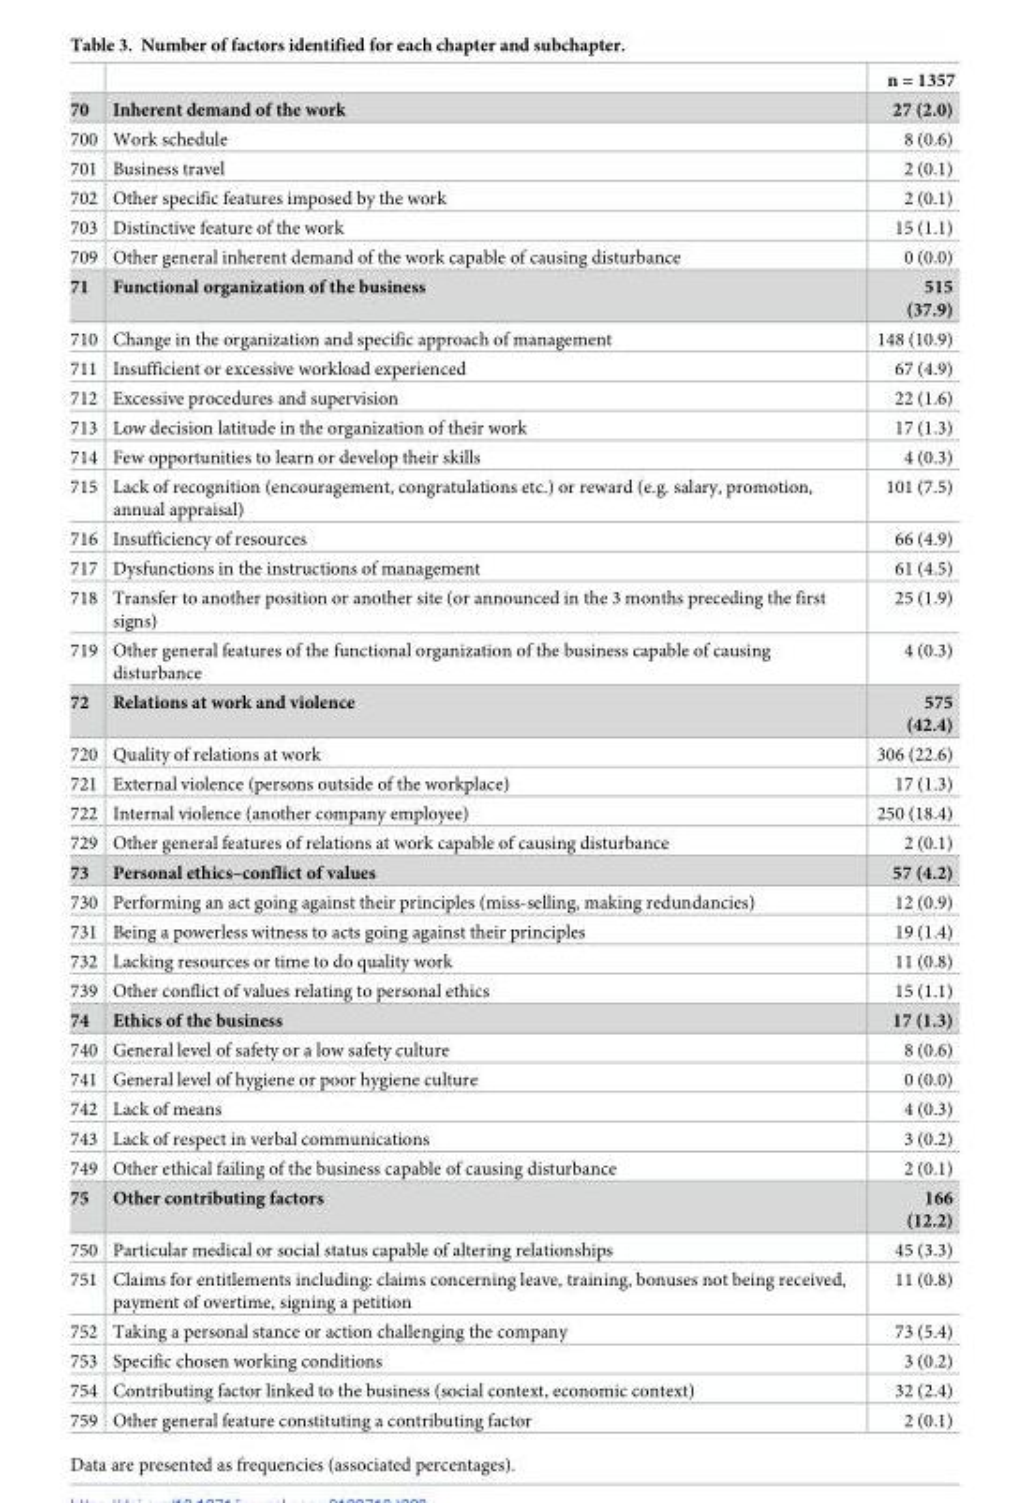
<table><thead><tr><td></td><td></td><td>n = 1357</td></tr></thead><tbody><tr><td>70</td><td>Inherent demand of the work</td><td>27 (2.0)</td></tr><tr><td>700</td><td>Work schedule</td><td>8 (0.6)</td></tr><tr><td>701</td><td>Business travel</td><td>2 (0.1)</td></tr><tr><td>702</td><td>Other specific features imposed by the work</td><td>2 (0.1)</td></tr><tr><td>703</td><td>Distinctive feature of the work</td><td>15 (1.1)</td></tr><tr><td>709</td><td>Other general inherent demand of the work capable of causing disturbance</td><td>0 (0.0)</td></tr><tr><td>71</td><td>Functional organization of the business</td><td>515 (37.9)</td></tr><tr><td>710</td><td>Change in the organization and specific approach of management</td><td>148 (10.9)</td></tr><tr><td>711</td><td>Insufficient or excessive workload experienced</td><td>67 (4.9)</td></tr><tr><td>712</td><td>Excessive procedures and supervision</td><td>22 (1.6)</td></tr><tr><td>713</td><td>Low decision latitude in the organization of their work</td><td>17 (1.3)</td></tr><tr><td>714</td><td>Few opportunities to learn or develop their skills</td><td>4 (0.3)</td></tr><tr><td>715</td><td>Lack of recognition (encouragement, congratulations etc.) or reward (e.g. salary, promotion, annual appraisal)</td><td>101 (7.5)</td></tr><tr><td>716</td><td>Insufficiency of resources</td><td>66 (4.9)</td></tr><tr><td>717</td><td>Dysfunctions in the instructions of management</td><td>61 (4.5)</td></tr><tr><td>718</td><td>Transfer to another position or another site (or announced in the 3 months preceding the first signs)</td><td>25 (1.9)</td></tr><tr><td>719</td><td>Other general features of the functional organization of the business capable of causing disturbance</td><td>4 (0.3)</td></tr><tr><td>72</td><td>Relations at work and violence</td><td>575 (42.4)</td></tr><tr><td>720</td><td>Quality of relations at work</td><td>306 (22.6)</td></tr><tr><td>721</td><td>External violence (persons outside of the workplace)</td><td>17 (1.3)</td></tr><tr><td>722</td><td>Internal violence (another company employee)</td><td>250 (18.4)</td></tr><tr><td>729</td><td>Other general features of relations at work capable of causing disturbance</td><td>2 (0.1)</td></tr><tr><td>73</td><td>Personal ethics–conflict of values</td><td>57 (4.2)</td></tr><tr><td>730</td><td>Performing an act going against their principles (miss-selling, making redundancies)</td><td>12 (0.9)</td></tr><tr><td>731</td><td>Being a powerless witness to acts going against their principles</td><td>19 (1.4)</td></tr><tr><td>732</td><td>Lacking resources or time to do quality work</td><td>11 (0.8)</td></tr><tr><td>739</td><td>Other conflict of values relating to personal ethics</td><td>15 (1.1)</td></tr><tr><td>74</td><td>Ethics of the business</td><td>17 (1.3)</td></tr><tr><td>740</td><td>General level of safety or a low safety culture</td><td>8 (0.6)</td></tr><tr><td>741</td><td>General level of hygiene or poor hygiene culture</td><td>0 (0.0)</td></tr><tr><td>742</td><td>Lack of means</td><td>4 (0.3)</td></tr><tr><td>743</td><td>Lack of respect in verbal communications</td><td>3 (0.2)</td></tr><tr><td>749</td><td>Other ethical failing of the business capable of causing disturbance</td><td>2 (0.1)</td></tr><tr><td>75</td><td>Other contributing factors</td><td>166 (12.2)</td></tr><tr><td>750</td><td>Particular medical or social status capable of altering relationships</td><td>45 (3.3)</td></tr><tr><td>751</td><td>Claims for entitlements including: claims concerning leave, training, bonuses not being received, payment of overtime, signing a petition</td><td>11 (0.8)</td></tr><tr><td>752</td><td>Taking a personal stance or action challenging the company</td><td>73 (5.4)</td></tr><tr><td>753</td><td>Specific chosen working conditions</td><td>3 (0.2)</td></tr><tr><td>754</td><td>Contributing factor linked to the business (social context, economic context)</td><td>32 (2.4)</td></tr><tr><td>759</td><td>Other general feature constituting a contributing factor</td><td>2 (0.1)</td></tr></tbody></table>